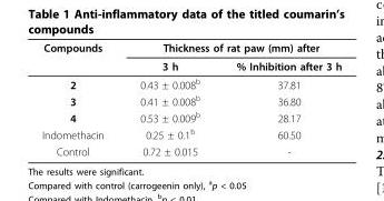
<table><thead><tr><td rowspan="2">Compounds</td><td colspan="2">Thickness of rat paw (mm) after</td></tr><tr><td>3 h</td><td>% Inhibition after 3 h</td></tr></thead><tbody><tr><td>2</td><td>0.43 ± 0.008<sup>b</sup></td><td>37.81</td></tr><tr><td>3</td><td>0.41 ± 0.008<sup>b</sup></td><td>36.80</td></tr><tr><td>4</td><td>0.53 ± 0.009<sup>b</sup></td><td>28.17</td></tr><tr><td>Indomethacin</td><td>0.25 ± 0.1<sup>b</sup></td><td>60.50</td></tr><tr><td>Control</td><td>0.72 ± 0.015</td><td>-</td></tr></tbody></table>